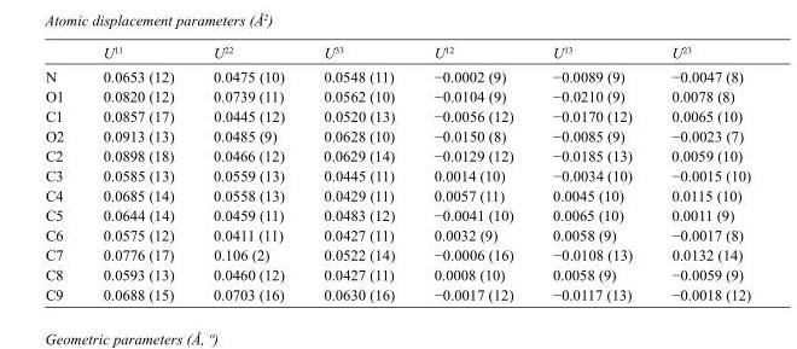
<table><thead><tr><td></td><td>U<sup>11</sup></td><td>U<sup>22</sup></td><td>U<sup>33</sup></td><td>U<sup>12</sup></td><td>U<sup>13</sup></td><td>U<sup>23</sup></td></tr></thead><tbody><tr><td>N</td><td>0.0653 (12)</td><td>0.0475 (10)</td><td>0.0548 (11)</td><td>−0.0002 (9)</td><td>−0.0089 (9)</td><td>−0.0047 (8)</td></tr><tr><td>O1</td><td>0.0820 (12)</td><td>0.0739 (11)</td><td>0.0562 (10)</td><td>−0.0104 (9)</td><td>−0.0210 (9)</td><td>0.0078 (8)</td></tr><tr><td>C1</td><td>0.0857 (17)</td><td>0.0445 (12)</td><td>0.0520 (13)</td><td>−0.0056 (12)</td><td>−0.0170 (12)</td><td>0.0065 (10)</td></tr><tr><td>O2</td><td>0.0913 (13)</td><td>0.0485 (9)</td><td>0.0628 (10)</td><td>−0.0150 (8)</td><td>−0.0085 (9)</td><td>−0.0023 (7)</td></tr><tr><td>C2</td><td>0.0898 (18)</td><td>0.0466 (12)</td><td>0.0629 (14)</td><td>−0.0129 (12)</td><td>−0.0185 (13)</td><td>0.0059 (10)</td></tr><tr><td>C3</td><td>0.0585 (13)</td><td>0.0559 (13)</td><td>0.0445 (11)</td><td>0.0014 (10)</td><td>−0.0034 (10)</td><td>−0.0015 (10)</td></tr><tr><td>C4</td><td>0.0685 (14)</td><td>0.0558 (13)</td><td>0.0429 (11)</td><td>0.0057 (11)</td><td>0.0045 (10)</td><td>0.0115 (10)</td></tr><tr><td>C5</td><td>0.0644 (14)</td><td>0.0459 (11)</td><td>0.0483 (12)</td><td>−0.0041 (10)</td><td>0.0065 (10)</td><td>0.0011 (9)</td></tr><tr><td>C6</td><td>0.0575 (12)</td><td>0.0411 (11)</td><td>0.0427 (11)</td><td>0.0032 (9)</td><td>0.0058 (9)</td><td>−0.0017 (8)</td></tr><tr><td>C7</td><td>0.0776 (17)</td><td>0.106 (2)</td><td>0.0522 (14)</td><td>−0.0006 (16)</td><td>−0.0108 (13)</td><td>0.0132 (14)</td></tr><tr><td>C8</td><td>0.0593 (13)</td><td>0.0460 (12)</td><td>0.0427 (11)</td><td>0.0008 (10)</td><td>0.0058 (9)</td><td>−0.0059 (9)</td></tr><tr><td>C9</td><td>0.0688 (15)</td><td>0.0703 (16)</td><td>0.0630 (16)</td><td>−0.0017 (12)</td><td>−0.0117 (13)</td><td>−0.0018 (12)</td></tr></tbody></table>